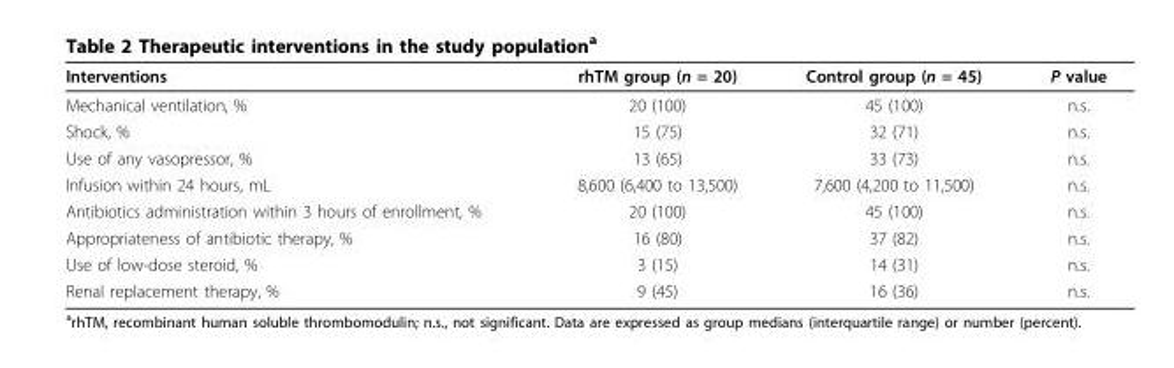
<table><thead><tr><td>Interventions</td><td>rhTM group (n = 20)</td><td>Control group (n = 45)</td><td>P value</td></tr></thead><tbody><tr><td>Mechanical ventilation, %</td><td>20 (100)</td><td>45 (100)</td><td>n.s.</td></tr><tr><td>Shock, %</td><td>15 (75)</td><td>32 (71)</td><td>n.s.</td></tr><tr><td>Use of any vasopressor, %</td><td>13 (65)</td><td>33 (73)</td><td>n.s.</td></tr><tr><td>Infusion within 24 hours, mL</td><td>8,600 (6,400 to 13,500)</td><td>7,600 (4,200 to 11,500)</td><td>n.s.</td></tr><tr><td>Antibiotics administration within 3 hours of enrollment, %</td><td>20 (100)</td><td>45 (100)</td><td>n.s.</td></tr><tr><td>Appropriateness of antibiotic therapy, %</td><td>16 (80)</td><td>37 (82)</td><td>n.s.</td></tr><tr><td>Use of low-dose steroid, %</td><td>3 (15)</td><td>14 (31)</td><td>n.s.</td></tr><tr><td>Renal replacement therapy, %</td><td>9 (45)</td><td>16 (36)</td><td>n.s.</td></tr></tbody></table>